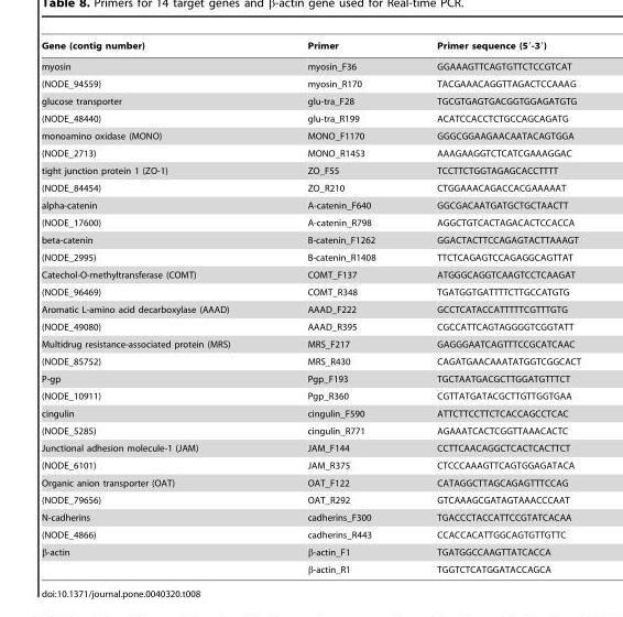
<table><thead><tr><td>Gene (contig number)</td><td>Primer</td><td>Primer sequence (5′-3′)</td></tr></thead><tbody><tr><td>myosin</td><td>myosin_F36</td><td>GGAAAGTTCAGTGTTCTCCGTCAT</td></tr><tr><td>(NODE_94559)</td><td>myosin_R170</td><td>TACGAAACAGGTTAGACTCCAAAG</td></tr><tr><td>glucose transporter</td><td>glu-tra_F28</td><td>TGCGTGAGTGACGGTGGAGATGTG</td></tr><tr><td>(NODE_48440)</td><td>glu-tra_R199</td><td>ACATCCACCTCTGCCAGCAGATG</td></tr><tr><td>monoamino oxidase (MONO)</td><td>MONO_F1170</td><td>GGGCGGAAGAACAATACAGTGGA</td></tr><tr><td>(NODE_2713)</td><td>MONO_R1453</td><td>AAAGAAGGTCTCATCGAAAGGAC</td></tr><tr><td>tight junction protein 1 (ZO-1)</td><td>ZO_F55</td><td>TCCTTCTGGTAGAGCACCTTTT</td></tr><tr><td>(NODE_84454)</td><td>ZO_R210</td><td>CTGGAAACAGACCACGAAAAAT</td></tr><tr><td>alpha-catenin</td><td>A-catenin_F640</td><td>GGCGACAATGATGCTGCTAACTT</td></tr><tr><td>(NODE_17600)</td><td>A-catenin_R798</td><td>AGGCTGTCACTAGACACTCCACCA</td></tr><tr><td>beta-catenin</td><td>B-catenin_F1262</td><td>GGACTACTTCCAGAGTACTTAAAGT</td></tr><tr><td>(NODE_2995)</td><td>B-catenin_R1408</td><td>TTCTCAGAGTCCAGAGGCAGTTAT</td></tr><tr><td>Catechol-O-methyltransferase (COMT)</td><td>COMT_F137</td><td>ATGGGCAGGTCAAGTCCTCAAGAT</td></tr><tr><td>(NODE_96469)</td><td>COMT_R348</td><td>TGATGGTGATTTTCTTGCCATGTG</td></tr><tr><td>Aromatic L-amino acid decarboxylase (AAAD)</td><td>AAAD_F222</td><td>GCCTCATACCATTTTTCGTTTGTG</td></tr><tr><td>(NODE_49080)</td><td>AAAD_R395</td><td>CGCCATTCAGTAGGGGTCGGTATT</td></tr><tr><td>Multidrug resistance-associated protein (MRS)</td><td>MRS_F217</td><td>GAGGGAATCAGTTTCCGCATCAAC</td></tr><tr><td>(NODE_85752)</td><td>MRS_R430</td><td>CAGATGAACAAATATGGTCGGCACT</td></tr><tr><td>P-gp</td><td>Pgp_F193</td><td>TGCTAATGACGCTTGGATGTTTCT</td></tr><tr><td>(NODE_10911)</td><td>Pgp_R360</td><td>CGTTATGATACGCTTGTTGGTGAA</td></tr><tr><td>cingulin</td><td>cingulin_F590</td><td>ATTCTTCCTTCTCACCAGCCTCAC</td></tr><tr><td>(NODE_5285)</td><td>cingulin_R771</td><td>AGAAATCACTCGGTTAAACACTC</td></tr><tr><td>Junctional adhesion molecule-1 (JAM)</td><td>JAM_F144</td><td>CCTTCAACAGGCTCACTCACTTCT</td></tr><tr><td>(NODE_6101)</td><td>JAM_R375</td><td>CTCCCAAAGTTCAGTGGAGATACA</td></tr><tr><td>Organic anion transporter (OAT)</td><td>OAT_F122</td><td>CATAGGCTTAGCAGAGTTTCCAG</td></tr><tr><td>(NODE_79656)</td><td>OAT_R292</td><td>GTCAAAGCGATAGTAAACCCAAT</td></tr><tr><td>N-cadherins</td><td>cadherins_F300</td><td>TGACCCTACCATTCCGTATCACAA</td></tr><tr><td>(NODE_4866)</td><td>cadherins_R443</td><td>CCACCACATTGGCAGTGTTGTTC</td></tr><tr><td rowspan="2">β-actin</td><td>β-actin_F1</td><td>TGATGGCCAAGTTATCACCA</td></tr><tr><td>β-actin_R1</td><td>TGGTCTCATGGATACCAGCA</td></tr></tbody></table>